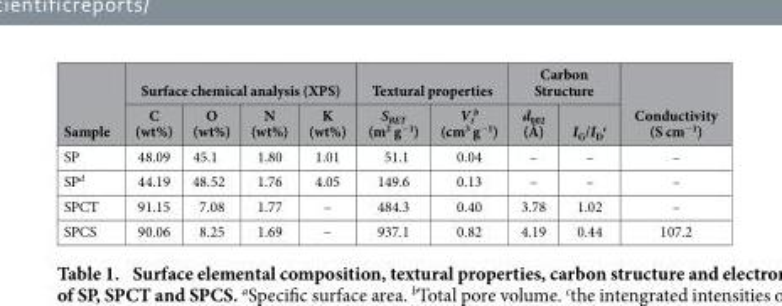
<table><thead><tr><td rowspan="2">Sample</td><td colspan="4">Surface chemical analysis (XPS)</td><td colspan="2">Textural properties</td><td colspan="2">Carbon Structure</td><td rowspan="2">Conductivity (S cm<sup>−1</sup>)</td></tr><tr><td>C (wt%)</td><td>O (wt%)</td><td>N (wt%)</td><td>K (wt%)</td><td>S<sub>BET</sub> (m<sup>2</sup> g<sup>−1</sup>)</td><td>V<sub>t</sub> <sup>b</sup> (cm<sup>3</sup> g<sup>−1</sup>)</td><td>d<sub>002</sub> (Å)</td><td>I<sub>G</sub>/I<sub>D</sub> <sup>c</sup></td></tr></thead><tbody><tr><td>SP</td><td>48.09</td><td>45.1</td><td>1.80</td><td>1.01</td><td>51.1</td><td>0.04</td><td>–</td><td>–</td><td>–</td></tr><tr><td>SP<sup>d</sup></td><td>44.19</td><td>48.52</td><td>1.76</td><td>4.05</td><td>149.6</td><td>0.13</td><td>–</td><td>–</td><td>–</td></tr><tr><td>SPCT</td><td>91.15</td><td>7.08</td><td>1.77</td><td>–</td><td>484.3</td><td>0.40</td><td>3.78</td><td>1.02</td><td>–</td></tr><tr><td>SPCS</td><td>90.06</td><td>8.25</td><td>1.69</td><td>–</td><td>937.1</td><td>0.82</td><td>4.19</td><td>0.44</td><td>107.2</td></tr></tbody></table>